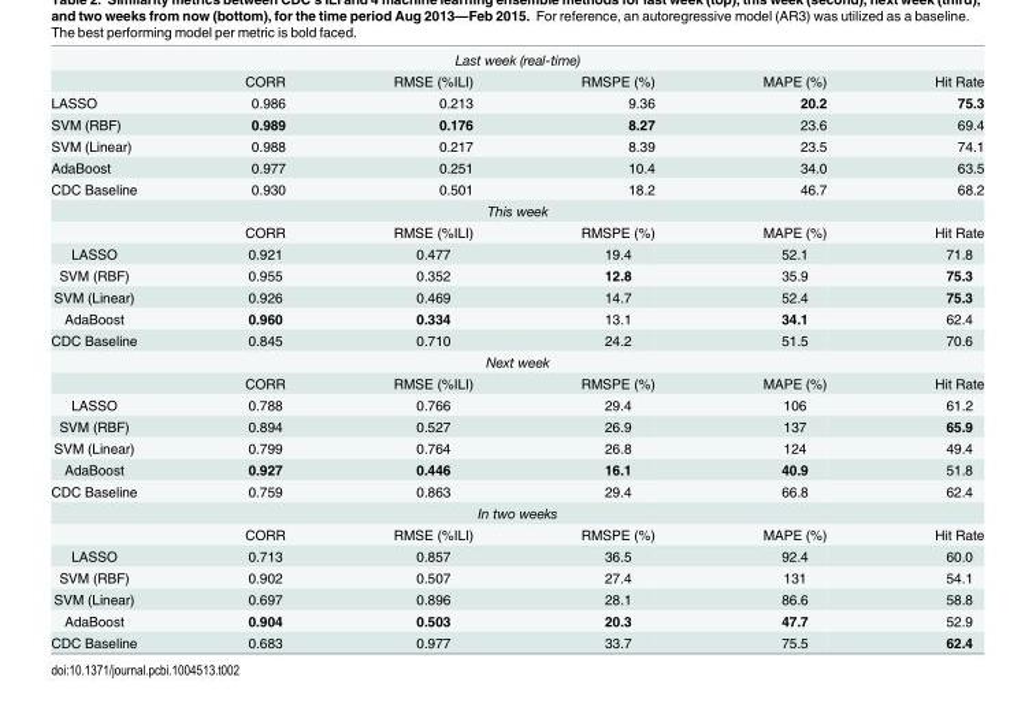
<table><tbody><tr><td colspan="6">Last week (real-time)</td></tr><tr><td></td><td>CORR</td><td>RMSE (%ILI)</td><td>RMSPE (%)</td><td>MAPE (%)</td><td>Hit Rate</td></tr><tr><td>LASSO</td><td>0.986</td><td>0.213</td><td>9.36</td><td>20.2</td><td>75.3</td></tr><tr><td>SVM (RBF)</td><td>0.989</td><td>0.176</td><td>8.27</td><td>23.6</td><td>69.4</td></tr><tr><td>SVM (Linear)</td><td>0.988</td><td>0.217</td><td>8.39</td><td>23.5</td><td>74.1</td></tr><tr><td>AdaBoost</td><td>0.977</td><td>0.251</td><td>10.4</td><td>34.0</td><td>63.5</td></tr><tr><td>CDC Baseline</td><td>0.930</td><td>0.501</td><td>18.2</td><td>46.7</td><td>68.2</td></tr><tr><td colspan="6">This week</td></tr><tr><td></td><td>CORR</td><td>RMSE (%ILI)</td><td>RMSPE (%)</td><td>MAPE (%)</td><td>Hit Rate</td></tr><tr><td>LASSO</td><td>0.921</td><td>0.477</td><td>19.4</td><td>52.1</td><td>71.8</td></tr><tr><td>SVM (RBF)</td><td>0.955</td><td>0.352</td><td>12.8</td><td>35.9</td><td>75.3</td></tr><tr><td>SVM (Linear)</td><td>0.926</td><td>0.469</td><td>14.7</td><td>52.4</td><td>75.3</td></tr><tr><td>AdaBoost</td><td>0.960</td><td>0.334</td><td>13.1</td><td>34.1</td><td>62.4</td></tr><tr><td>CDC Baseline</td><td>0.845</td><td>0.710</td><td>24.2</td><td>51.5</td><td>70.6</td></tr><tr><td colspan="6">Next week</td></tr><tr><td></td><td>CORR</td><td>RMSE (%ILI)</td><td>RMSPE (%)</td><td>MAPE (%)</td><td>Hit Rate</td></tr><tr><td>LASSO</td><td>0.788</td><td>0.766</td><td>29.4</td><td>106</td><td>61.2</td></tr><tr><td>SVM (RBF)</td><td>0.894</td><td>0.527</td><td>26.9</td><td>137</td><td>65.9</td></tr><tr><td>SVM (Linear)</td><td>0.799</td><td>0.764</td><td>26.8</td><td>124</td><td>49.4</td></tr><tr><td>AdaBoost</td><td>0.927</td><td>0.446</td><td>16.1</td><td>40.9</td><td>51.8</td></tr><tr><td>CDC Baseline</td><td>0.759</td><td>0.863</td><td>29.4</td><td>66.8</td><td>62.4</td></tr><tr><td colspan="6">In two weeks</td></tr><tr><td></td><td>CORR</td><td>RMSE (%ILI)</td><td>RMSPE (%)</td><td>MAPE (%)</td><td>Hit Rate</td></tr><tr><td>LASSO</td><td>0.713</td><td>0.857</td><td>36.5</td><td>92.4</td><td>60.0</td></tr><tr><td>SVM (RBF)</td><td>0.902</td><td>0.507</td><td>27.4</td><td>131</td><td>54.1</td></tr><tr><td>SVM (Linear)</td><td>0.697</td><td>0.896</td><td>28.1</td><td>86.6</td><td>58.8</td></tr><tr><td>AdaBoost</td><td>0.904</td><td>0.503</td><td>20.3</td><td>47.7</td><td>52.9</td></tr><tr><td>CDC Baseline</td><td>0.683</td><td>0.977</td><td>33.7</td><td>75.5</td><td>62.4</td></tr></tbody></table>